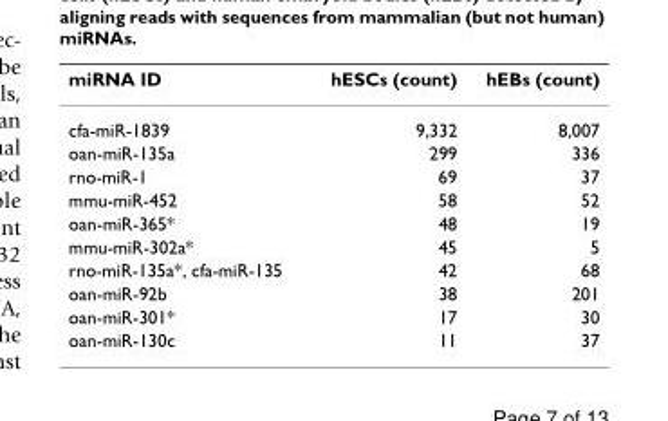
<table><thead><tr><td>miRNA ID</td><td>hESCs (count)</td><td>hEBs (count)</td></tr></thead><tbody><tr><td>cfa-miR-1839</td><td>9,332</td><td>8,007</td></tr><tr><td>oan-miR-135a</td><td>299</td><td>336</td></tr><tr><td>rno-miR-1</td><td>69</td><td>37</td></tr><tr><td>mmu-miR-452</td><td>58</td><td>52</td></tr><tr><td>oan-miR-365*</td><td>48</td><td>19</td></tr><tr><td>mmu-miR-302a*</td><td>45</td><td>5</td></tr><tr><td>rno-miR-135a*, cfa-miR-135</td><td>42</td><td>68</td></tr><tr><td>oan-miR-92b</td><td>38</td><td>201</td></tr><tr><td>oan-miR-301*</td><td>17</td><td>30</td></tr><tr><td>oan-miR-130c</td><td>11</td><td>37</td></tr></tbody></table>